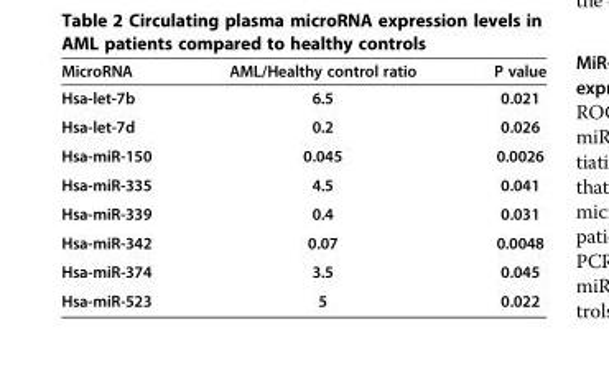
<table><thead><tr><td>MicroRNA</td><td>AML/Healthy control ratio</td><td>P value</td></tr></thead><tbody><tr><td>Hsa-let-7b</td><td>6.5</td><td>0.021</td></tr><tr><td>Hsa-let-7d</td><td>0.2</td><td>0.026</td></tr><tr><td>Hsa-miR-150</td><td>0.045</td><td>0.0026</td></tr><tr><td>Hsa-miR-335</td><td>4.5</td><td>0.041</td></tr><tr><td>Hsa-miR-339</td><td>0.4</td><td>0.031</td></tr><tr><td>Hsa-miR-342</td><td>0.07</td><td>0.0048</td></tr><tr><td>Hsa-miR-374</td><td>3.5</td><td>0.045</td></tr><tr><td>Hsa-miR-523</td><td>5</td><td>0.022</td></tr></tbody></table>